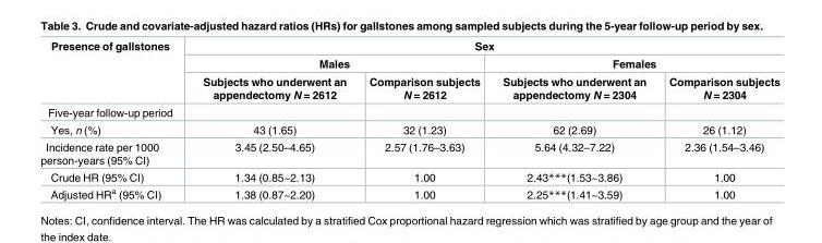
<table><thead><tr><td rowspan="3">Presence of gallstones</td><td colspan="4">Sex</td></tr><tr><td colspan="2">Males</td><td colspan="2">Females</td></tr><tr><td>Subjects who underwent an appendectomy N = 2612</td><td>Comparison subjects N = 2612</td><td>Subjects who underwent an appendectomy N = 2304</td><td>Comparison subjects N = 2304</td></tr></thead><tbody><tr><td colspan="5">Five-year follow-up period</td></tr><tr><td>Yes, n (%)</td><td>43 (1.65)</td><td>32 (1.23)</td><td>62 (2.69)</td><td>26 (1.12)</td></tr><tr><td>Incidence rate per 1000 person-years (95% CI)</td><td>3.45 (2.50–4.65)</td><td>2.57 (1.76–3.63)</td><td>5.64 (4.32–7.22)</td><td>2.36 (1.54–3.46)</td></tr><tr><td>Crude HR (95% CI)</td><td>1.34 (0.85~2.13)</td><td>1.00</td><td>2.43***(1.53~3.86)</td><td>1.00</td></tr><tr><td>Adjusted HR<sup>a</sup> (95% CI)</td><td>1.38 (0.87~2.20)</td><td>1.00</td><td>2.25***(1.41~3.59)</td><td>1.00</td></tr></tbody></table>